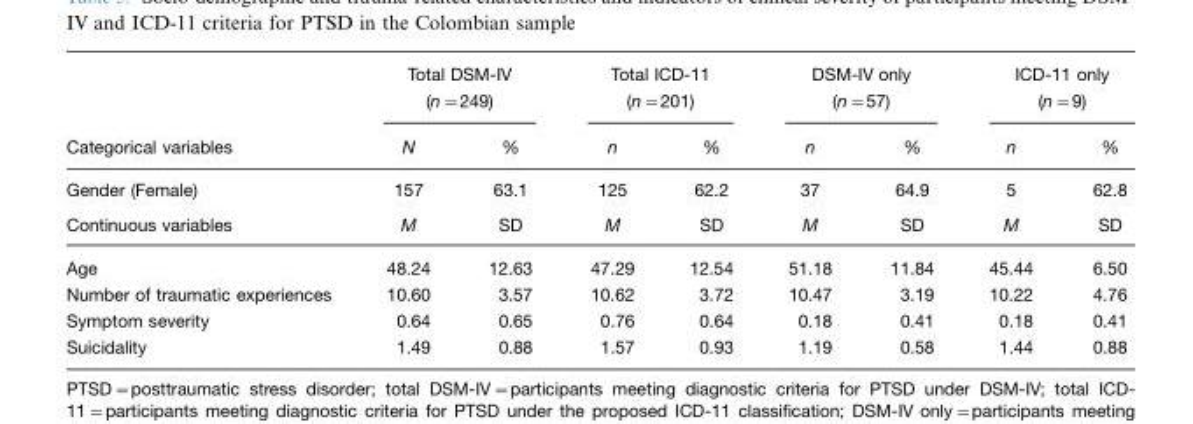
<table><thead><tr><td rowspan="2">Categorical variables</td><td colspan="2">Total DSM-IV (n=249)</td><td colspan="2">Total ICD-11 (n=201)</td><td colspan="2">DSM-IV only (n=57)</td><td colspan="2">ICD-11 only (n=9)</td></tr><tr><td>N</td><td>%</td><td>n</td><td>%</td><td>n</td><td>%</td><td>n</td><td>%</td></tr></thead><tbody><tr><td>Gender (Female)</td><td>157</td><td>63.1</td><td>125</td><td>62.2</td><td>37</td><td>64.9</td><td>5</td><td>62.8</td></tr><tr><td>Continuous variables</td><td>M</td><td>SD</td><td>M</td><td>SD</td><td>M</td><td>SD</td><td>M</td><td>SD</td></tr><tr><td>Age</td><td>48.24</td><td>12.63</td><td>47.29</td><td>12.54</td><td>51.18</td><td>11.84</td><td>45.44</td><td>6.50</td></tr><tr><td>Number of traumatic experiences</td><td>10.60</td><td>3.57</td><td>10.62</td><td>3.72</td><td>10.47</td><td>3.19</td><td>10.22</td><td>4.76</td></tr><tr><td>Symptom severity</td><td>0.64</td><td>0.65</td><td>0.76</td><td>0.64</td><td>0.18</td><td>0.41</td><td>0.18</td><td>0.41</td></tr><tr><td>Suicidality</td><td>1.49</td><td>0.88</td><td>1.57</td><td>0.93</td><td>1.19</td><td>0.58</td><td>1.44</td><td>0.88</td></tr></tbody></table>